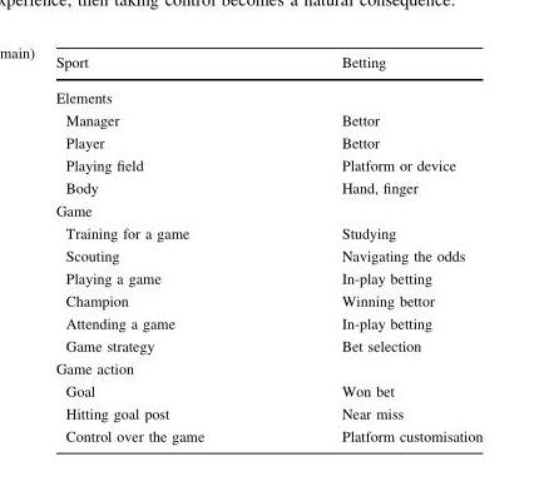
<table><thead><tr><td>Sport</td><td>Betting</td></tr></thead><tbody><tr><td colspan="2">Elements</td></tr><tr><td>Manager</td><td>Bettor</td></tr><tr><td>Player</td><td>Bettor</td></tr><tr><td>Playing field</td><td>Platform or device</td></tr><tr><td>Body</td><td>Hand, finger</td></tr><tr><td colspan="2">Game</td></tr><tr><td>Training for a game</td><td>Studying</td></tr><tr><td>Scouting</td><td>Navigating the odds</td></tr><tr><td>Playing a game</td><td>In-play betting</td></tr><tr><td>Champion</td><td>Winning bettor</td></tr><tr><td>Attending a game</td><td>In-play betting</td></tr><tr><td>Game strategy</td><td>Bet selection</td></tr><tr><td colspan="2">Game action</td></tr><tr><td>Goal</td><td>Won bet</td></tr><tr><td>Hitting goal post</td><td>Near miss</td></tr><tr><td>Control over the game</td><td>Platform customisation</td></tr></tbody></table>